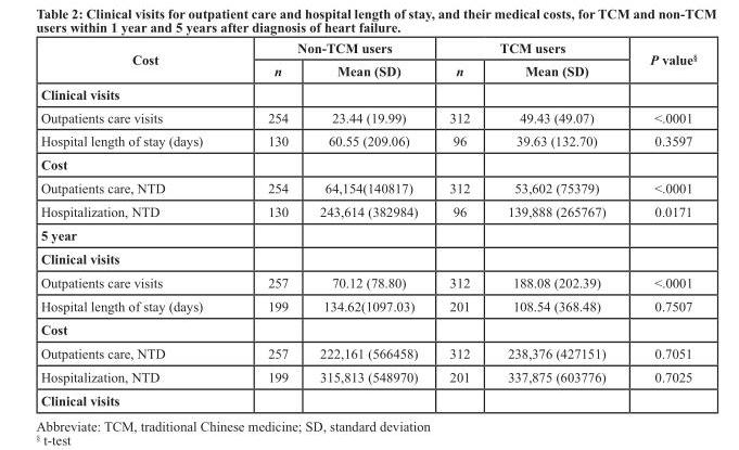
<table><thead><tr><td rowspan="2">Cost</td><td colspan="2">Non-TCM users</td><td colspan="2">TCM users</td><td rowspan="2">P value<sup>§</sup></td></tr><tr><td>n</td><td>Mean (SD)</td><td>n</td><td>Mean (SD)</td></tr></thead><tbody><tr><td colspan="6">Clinical visits</td></tr><tr><td>Outpatients care visits</td><td>254</td><td>23.44 (19.99)</td><td>312</td><td>49.43 (49.07)</td><td>&lt;.0001</td></tr><tr><td>Hospital length of stay (days)</td><td>130</td><td>60.55 (209.06)</td><td>96</td><td>39.63 (132.70)</td><td>0.3597</td></tr><tr><td colspan="6">Cost</td></tr><tr><td>Outpatients care, NTD</td><td>254</td><td>64,154(140817)</td><td>312</td><td>53,602 (75379)</td><td>&lt;.0001</td></tr><tr><td>Hospitalization, NTD</td><td>130</td><td>243,614 (382984)</td><td>96</td><td>139,888 (265767)</td><td>0.0171</td></tr><tr><td colspan="6">5 year</td></tr><tr><td colspan="6">Clinical visits</td></tr><tr><td>Outpatients care visits</td><td>257</td><td>70.12 (78.80)</td><td>312</td><td>188.08 (202.39)</td><td>&lt;.0001</td></tr><tr><td>Hospital length of stay (days)</td><td>199</td><td>134.62(1097.03)</td><td>201</td><td>108.54 (368.48)</td><td>0.7507</td></tr><tr><td colspan="6">Cost</td></tr><tr><td>Outpatients care, NTD</td><td>257</td><td>222,161 (566458)</td><td>312</td><td>238,376 (427151)</td><td>0.7051</td></tr><tr><td>Hospitalization, NTD</td><td>199</td><td>315,813 (548970)</td><td>201</td><td>337,875 (603776)</td><td>0.7025</td></tr><tr><td>Clinical visits</td><td></td><td></td><td></td><td></td><td></td></tr></tbody></table>